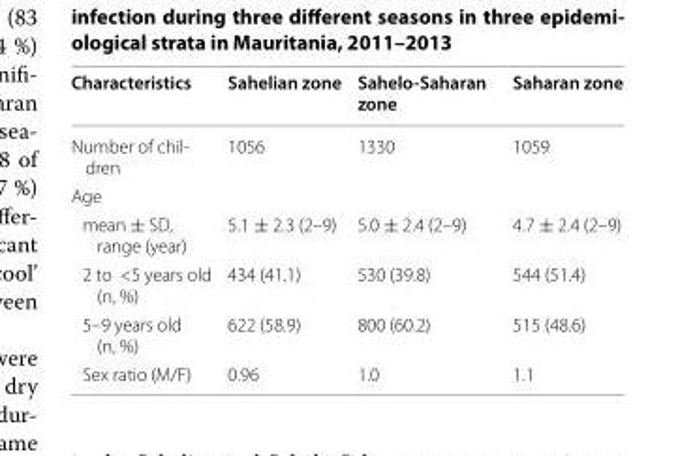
<table><thead><tr><td>Characteristics</td><td>Sahelian zone</td><td>Sahelo-Saharan zone</td><td>Saharan zone</td></tr></thead><tbody><tr><td>Number of chil- dren</td><td>1056</td><td>1330</td><td>1059</td></tr><tr><td colspan="4">Age</td></tr><tr><td>mean ± SD, range (year)</td><td>5.1 ± 2.3 (2–9)</td><td>5.0 ± 2.4 (2–9)</td><td>4.7 ± 2.4 (2–9)</td></tr><tr><td>2 to &lt;5 years old (n, %)</td><td>434 (41.1)</td><td>530 (39.8)</td><td>544 (51.4)</td></tr><tr><td>5–9 years old (n, %)</td><td>622 (58.9)</td><td>800 (60.2)</td><td>515 (48.6)</td></tr><tr><td>Sex ratio (M/F)</td><td>0.96</td><td>1.0</td><td>1.1</td></tr></tbody></table>